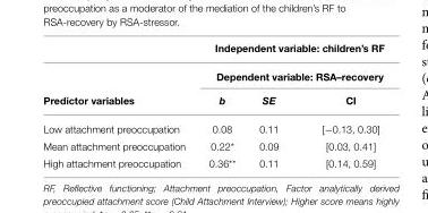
<table><thead><tr><td rowspan="3">Predictor variables</td><td rowspan="2" colspan="3">Independent variable: children’s RF Dependent variable: RSA–recovery</td></tr><tr></tr><tr><td>b</td><td>SE</td><td>CI</td></tr></thead><tbody><tr><td>Low attachment preoccupation</td><td>0.08</td><td>0.11</td><td>[−0.13, 0.30]</td></tr><tr><td>Mean attachment preoccupation</td><td>0.22*</td><td>0.09</td><td>[0.03, 0.41]</td></tr><tr><td>High attachment preoccupation</td><td>0.36**</td><td>0.11</td><td>[0.14, 0.59]</td></tr></tbody></table>